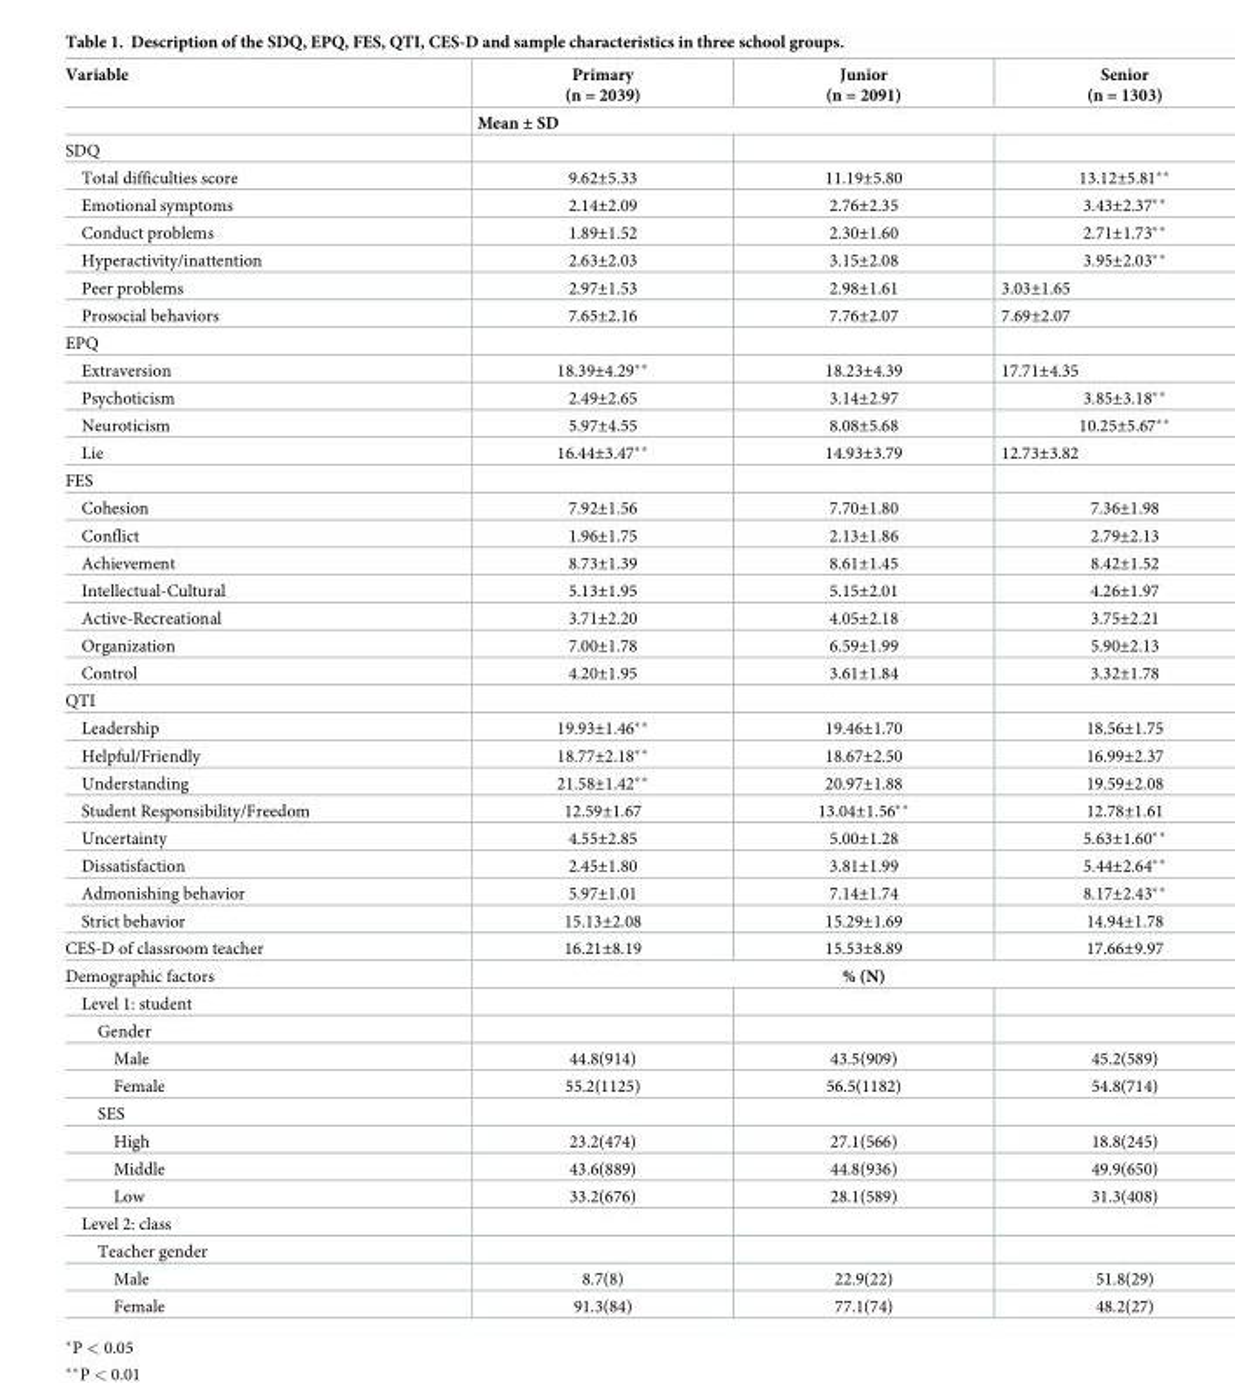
<table><thead><tr><td rowspan="2">Variable</td><td>Primary (n = 2039)</td><td>Junior (n = 2091)</td><td>Senior (n = 1303)</td></tr><tr><td colspan="3">Mean ± SD</td></tr></thead><tbody><tr><td colspan="4">SDQ</td></tr><tr><td>Total difficulties score</td><td>9.62±5.33</td><td>11.19±5.80</td><td>13.12±5.81**</td></tr><tr><td>Emotional symptoms</td><td>2.14±2.09</td><td>2.76±2.35</td><td>3.43±2.37**</td></tr><tr><td>Conduct problems</td><td>1.89±1.52</td><td>2.30±1.60</td><td>2.71±1.73**</td></tr><tr><td>Hyperactivity/inattention</td><td>2.63±2.03</td><td>3.15±2.08</td><td>3.95±2.03**</td></tr><tr><td>Peer problems</td><td>2.97±1.53</td><td>2.98±1.61</td><td>3.03±1.65</td></tr><tr><td>Prosocial behaviors</td><td>7.65±2.16</td><td>7.76±2.07</td><td>7.69±2.07</td></tr><tr><td colspan="4">EPQ</td></tr><tr><td>Extraversion</td><td>18.39±4.29**</td><td>18.23±4.39</td><td>17.71±4.35</td></tr><tr><td>Psychoticism</td><td>2.49±2.65</td><td>3.14±2.97</td><td>3.85±3.18**</td></tr><tr><td>Neuroticism</td><td>5.97±4.55</td><td>8.08±5.68</td><td>10.25±5.67**</td></tr><tr><td>Lie</td><td>16.44±3.47**</td><td>14.93±3.79</td><td>12.73±3.82</td></tr><tr><td colspan="4">FES</td></tr><tr><td>Cohesion</td><td>7.92±1.56</td><td>7.70±1.80</td><td>7.36±1.98</td></tr><tr><td>Conflict</td><td>1.96±1.75</td><td>2.13±1.86</td><td>2.79±2.13</td></tr><tr><td>Achievement</td><td>8.73±1.39</td><td>8.61±1.45</td><td>8.42±1.52</td></tr><tr><td>Intellectual-Cultural</td><td>5.13±1.95</td><td>5.15±2.01</td><td>4.26±1.97</td></tr><tr><td>Active-Recreational</td><td>3.71±2.20</td><td>4.05±2.18</td><td>3.75±2.21</td></tr><tr><td>Organization</td><td>7.00±1.78</td><td>6.59±1.99</td><td>5.90±2.13</td></tr><tr><td>Control</td><td>4.20±1.95</td><td>3.61±1.84</td><td>3.32±1.78</td></tr><tr><td colspan="4">QTI</td></tr><tr><td>Leadership</td><td>19.93±1.46**</td><td>19.46±1.70</td><td>18.56±1.75</td></tr><tr><td>Helpful/Friendly</td><td>18.77±2.18**</td><td>18.67±2.50</td><td>16.99±2.37</td></tr><tr><td>Understanding</td><td>21.58±1.42**</td><td>20.97±1.88</td><td>19.59±2.08</td></tr><tr><td>Student Responsibility/Freedom</td><td>12.59±1.67</td><td>13.04±1.56**</td><td>12.78±1.61</td></tr><tr><td>Uncertainty</td><td>4.55±2.85</td><td>5.00±1.28</td><td>5.63±1.60**</td></tr><tr><td>Dissatisfaction</td><td>2.45±1.80</td><td>3.81±1.99</td><td>5.44±2.64**</td></tr><tr><td>Admonishing behavior</td><td>5.97±1.01</td><td>7.14±1.74</td><td>8.17±2.43**</td></tr><tr><td>Strict behavior</td><td>15.13±2.08</td><td>15.29±1.69</td><td>14.94±1.78</td></tr><tr><td>CES-D of classroom teacher</td><td>16.21±8.19</td><td>15.53±8.89</td><td>17.66±9.97</td></tr><tr><td>Demographic factors</td><td colspan="3">% (N)</td></tr><tr><td colspan="4">Level 1: student</td></tr><tr><td colspan="4">Gender</td></tr><tr><td>Male</td><td>44.8(914)</td><td>43.5(909)</td><td>45.2(589)</td></tr><tr><td>Female</td><td>55.2(1125)</td><td>56.5(1182)</td><td>54.8(714)</td></tr><tr><td colspan="4">SES</td></tr><tr><td>High</td><td>23.2(474)</td><td>27.1(566)</td><td>18.8(245)</td></tr><tr><td>Middle</td><td>43.6(889)</td><td>44.8(936)</td><td>49.9(650)</td></tr><tr><td>Low</td><td>33.2(676)</td><td>28.1(589)</td><td>31.3(408)</td></tr><tr><td colspan="4">Level 2: class</td></tr><tr><td colspan="4">Teacher gender</td></tr><tr><td>Male</td><td>8.7(8)</td><td>22.9(22)</td><td>51.8(29)</td></tr><tr><td>Female</td><td>91.3(84)</td><td>77.1(74)</td><td>48.2(27)</td></tr></tbody></table>